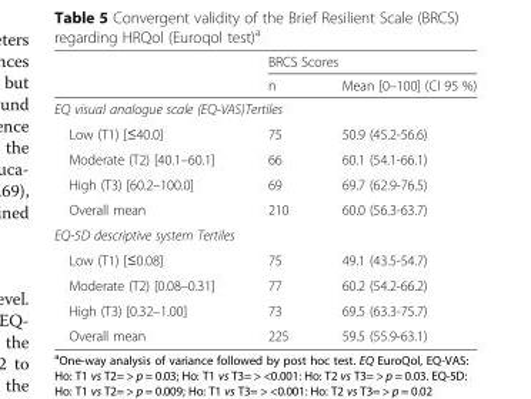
<table><thead><tr><td rowspan="2"></td><td colspan="2">BRCS Scores</td></tr><tr><td>n</td><td>Mean [0–100] (CI 95 %)</td></tr></thead><tbody><tr><td colspan="3">EQ visual analogue scale (EQ-VAS)Tertiles</td></tr><tr><td>Low (T1) [≤40.0]</td><td>75</td><td>50.9 (45.2-56.6)</td></tr><tr><td>Moderate (T2) [40.1–60.1]</td><td>66</td><td>60.1 (54.1-66.1)</td></tr><tr><td>High (T3) [60.2–100.0]</td><td>69</td><td>69.7 (62.9-76.5)</td></tr><tr><td>Overall mean</td><td>210</td><td>60.0 (56.3-63.7)</td></tr><tr><td colspan="3">EQ-5D descriptive system Tertiles</td></tr><tr><td>Low (T1) [≤0.08]</td><td>75</td><td>49.1 (43.5-54.7)</td></tr><tr><td>Moderate (T2) [0.08–0.31]</td><td>77</td><td>60.2 (54.2-66.2)</td></tr><tr><td>High (T3) [0.32–1.00]</td><td>73</td><td>69.5 (63.3-75.7)</td></tr><tr><td>Overall mean</td><td>225</td><td>59.5 (55.9-63.1)</td></tr></tbody></table>